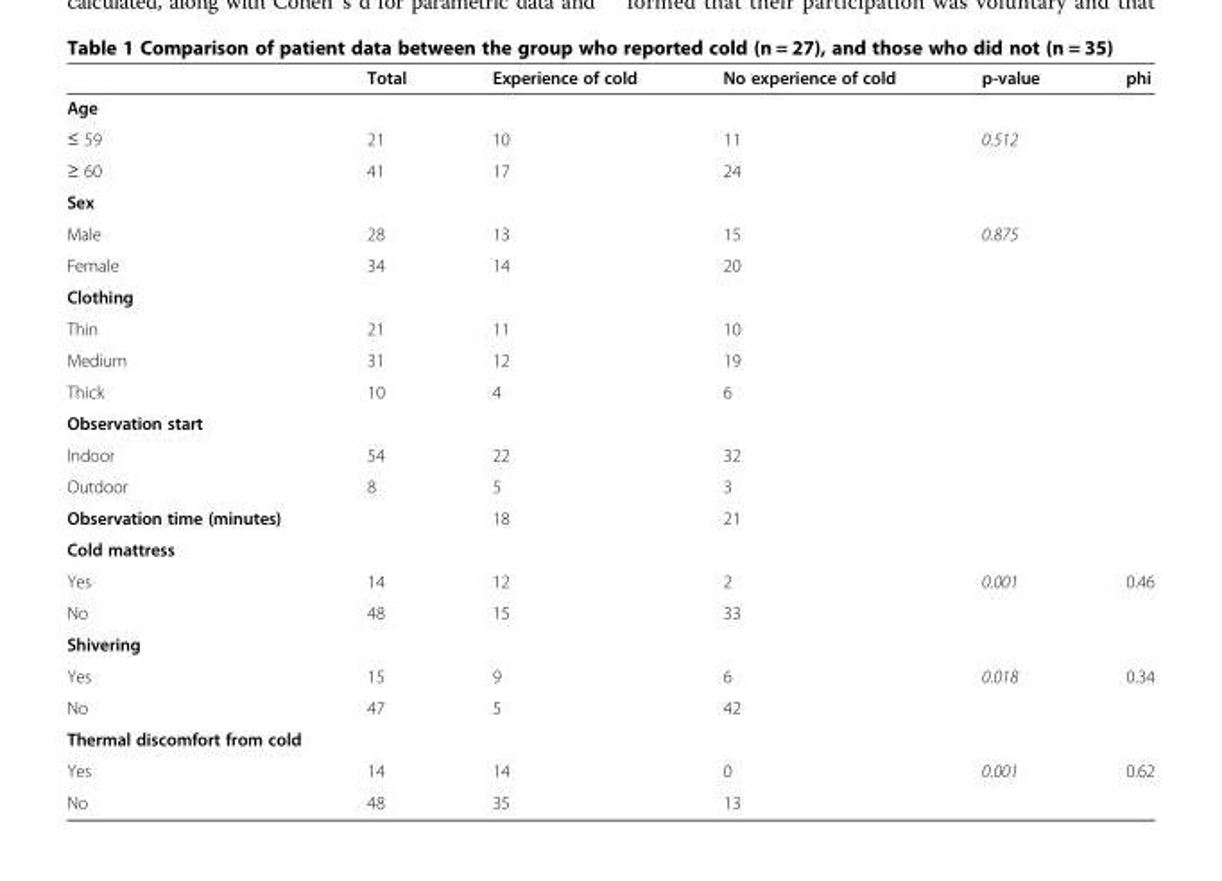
<table><thead><tr><td></td><td>Total</td><td>Experience of cold</td><td>No experience of cold</td><td>p-value</td><td>phi</td></tr></thead><tbody><tr><td colspan="6">Age</td></tr><tr><td>≤ 59</td><td>21</td><td>10</td><td>11</td><td>0.512</td><td></td></tr><tr><td>≥ 60</td><td>41</td><td>17</td><td>24</td><td></td><td></td></tr><tr><td colspan="6">Sex</td></tr><tr><td>Male</td><td>28</td><td>13</td><td>15</td><td>0.875</td><td></td></tr><tr><td>Female</td><td>34</td><td>14</td><td>20</td><td></td><td></td></tr><tr><td colspan="6">Clothing</td></tr><tr><td>Thin</td><td>21</td><td>11</td><td>10</td><td></td><td></td></tr><tr><td>Medium</td><td>31</td><td>12</td><td>19</td><td></td><td></td></tr><tr><td>Thick</td><td>10</td><td>4</td><td>6</td><td></td><td></td></tr><tr><td colspan="6">Observation start</td></tr><tr><td>Indoor</td><td>54</td><td>22</td><td>32</td><td></td><td></td></tr><tr><td>Outdoor</td><td>8</td><td>5</td><td>3</td><td></td><td></td></tr><tr><td>Observation time (minutes)</td><td></td><td>18</td><td>21</td><td></td><td></td></tr><tr><td colspan="6">Cold mattress</td></tr><tr><td>Yes</td><td>14</td><td>12</td><td>2</td><td>0.001</td><td>0.46</td></tr><tr><td>No</td><td>48</td><td>15</td><td>33</td><td></td><td></td></tr><tr><td colspan="6">Shivering</td></tr><tr><td>Yes</td><td>15</td><td>9</td><td>6</td><td>0.018</td><td>0.34</td></tr><tr><td>No</td><td>47</td><td>5</td><td>42</td><td></td><td></td></tr><tr><td colspan="6">Thermal discomfort from cold</td></tr><tr><td>Yes</td><td>14</td><td>14</td><td>0</td><td>0.001</td><td>0.62</td></tr><tr><td>No</td><td>48</td><td>35</td><td>13</td><td></td><td></td></tr></tbody></table>